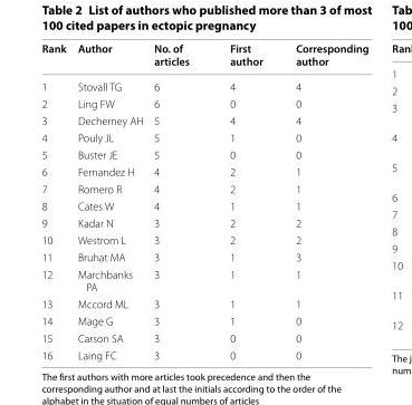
<table><thead><tr><td>Rank</td><td>Author</td><td>No. of articles</td><td>First author</td><td>Corresponding author</td></tr></thead><tbody><tr><td>1</td><td>Stovall TG</td><td>6</td><td>4</td><td>4</td></tr><tr><td>2</td><td>Ling FW</td><td>6</td><td>0</td><td>0</td></tr><tr><td>3</td><td>Decherney AH</td><td>5</td><td>4</td><td>4</td></tr><tr><td>4</td><td>Pouly JL</td><td>5</td><td>1</td><td>0</td></tr><tr><td>5</td><td>Buster JE</td><td>5</td><td>0</td><td>0</td></tr><tr><td>6</td><td>Fernandez H</td><td>4</td><td>2</td><td>1</td></tr><tr><td>7</td><td>Romero R</td><td>4</td><td>2</td><td>1</td></tr><tr><td>8</td><td>Cates W</td><td>4</td><td>1</td><td>1</td></tr><tr><td>9</td><td>Kadar N</td><td>3</td><td>2</td><td>2</td></tr><tr><td>10</td><td>Westrom L</td><td>3</td><td>2</td><td>2</td></tr><tr><td>11</td><td>Bruhat MA</td><td>3</td><td>1</td><td>3</td></tr><tr><td>12</td><td>Marchbanks PA</td><td>3</td><td>1</td><td>1</td></tr><tr><td>13</td><td>Mccord ML</td><td>3</td><td>1</td><td>1</td></tr><tr><td>14</td><td>Mage G</td><td>3</td><td>1</td><td>0</td></tr><tr><td>15</td><td>Carson SA</td><td>3</td><td>0</td><td>0</td></tr><tr><td>16</td><td>Laing FC</td><td>3</td><td>0</td><td>0</td></tr></tbody></table>